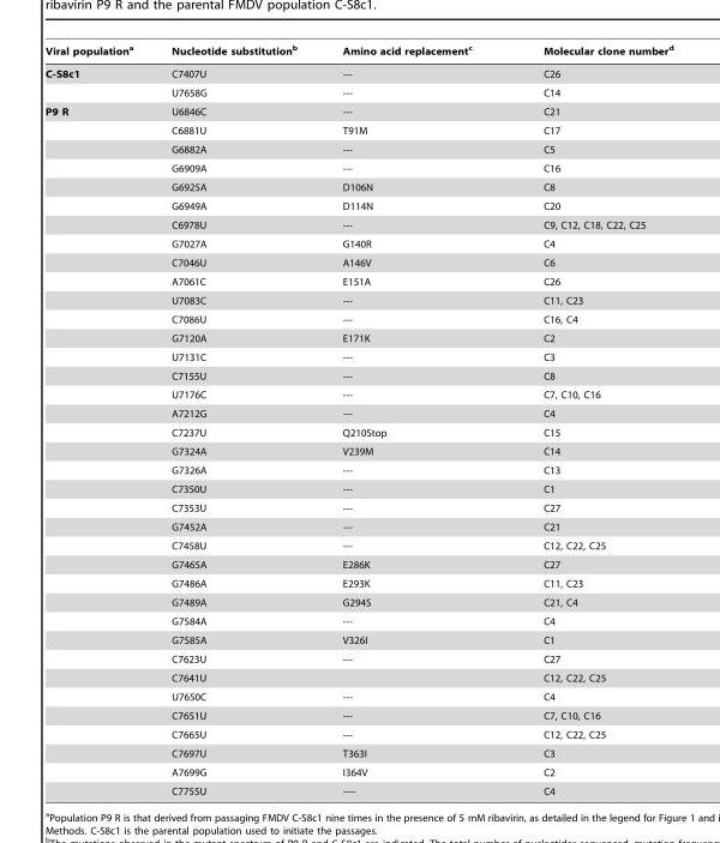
<table><thead><tr><td>Viral population<sup>a</sup></td><td>Nucleotide substitution<sup>b</sup></td><td>Amino acid replacement<sup>c</sup></td><td>Molecular clone number<sup>d</sup></td></tr></thead><tbody><tr><td rowspan="2">C-S8c1</td><td>C7407U</td><td>---</td><td>C26</td></tr><tr><td>U7658G</td><td>---</td><td>C14</td></tr><tr><td rowspan="37">P9 R</td><td>U6846C</td><td>---</td><td>C21</td></tr><tr><td>C6881U</td><td>T91M</td><td>C17</td></tr><tr><td>G6882A</td><td>---</td><td>C5</td></tr><tr><td>G6909A</td><td>---</td><td>C16</td></tr><tr><td>G6925A</td><td>D106N</td><td>C8</td></tr><tr><td>G6949A</td><td>D114N</td><td>C20</td></tr><tr><td>C6978U</td><td>---</td><td>C9, C12, C18, C22, C25</td></tr><tr><td>G7027A</td><td>G140R</td><td>C4</td></tr><tr><td>C7046U</td><td>A146V</td><td>C6</td></tr><tr><td>A7061C</td><td>E151A</td><td>C26</td></tr><tr><td>U7083C</td><td>---</td><td>C11, C23</td></tr><tr><td>C7086U</td><td>---</td><td>C16, C4</td></tr><tr><td>G7120A</td><td>E171K</td><td>C2</td></tr><tr><td>U7131C</td><td>---</td><td>C3</td></tr><tr><td>C7155U</td><td>---</td><td>C8</td></tr><tr><td>U7176C</td><td>---</td><td>C7, C10, C16</td></tr><tr><td>A7212G</td><td>---</td><td>C4</td></tr><tr><td>C7237U</td><td>Q210Stop</td><td>C15</td></tr><tr><td>G7324A</td><td>V239M</td><td>C14</td></tr><tr><td>G7326A</td><td>---</td><td>C13</td></tr><tr><td>C7350U</td><td>---</td><td>C1</td></tr><tr><td>C7353U</td><td>---</td><td>C27</td></tr><tr><td>G7452A</td><td>---</td><td>C21</td></tr><tr><td>C7458U</td><td>---</td><td>C12, C22, C25</td></tr><tr><td>G7465A</td><td>E286K</td><td>C27</td></tr><tr><td>G7486A</td><td>E293K</td><td>C11, C23</td></tr><tr><td>G7489A</td><td>G294S</td><td>C21, C4</td></tr><tr><td>G7584A</td><td>---</td><td>C4</td></tr><tr><td>G7585A</td><td>V326I</td><td>C1</td></tr><tr><td>C7623U</td><td>---</td><td>C27</td></tr><tr><td>C7641U</td><td></td><td>C12, C22, C25</td></tr><tr><td>U7650C</td><td>---</td><td>C4</td></tr><tr><td>C7651U</td><td>---</td><td>C7, C10, C16</td></tr><tr><td>C7665U</td><td>---</td><td>C12, C22, C25</td></tr><tr><td>C7697U</td><td>T363I</td><td>C3</td></tr><tr><td>A7699G</td><td>I364V</td><td>C2</td></tr><tr><td>C7755U</td><td>----</td><td>C4</td></tr></tbody></table>